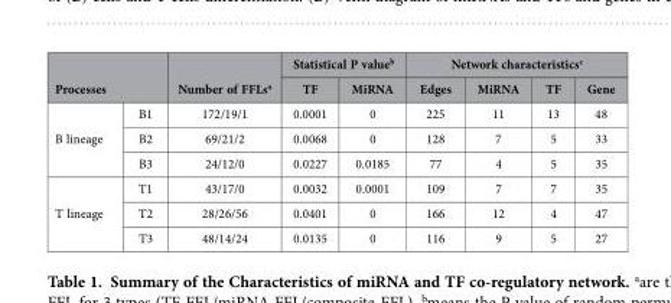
<table><thead><tr><td></td><td></td><td rowspan="2">Number of FFLs<sup>a</sup></td><td colspan="2">Statistical P value<sup>b</sup></td><td colspan="4">Network characteristics<sup>c</sup></td></tr><tr><td colspan="2">Processes</td><td>TF</td><td>MiRNA</td><td>Edges</td><td>MiRNA</td><td>TF</td><td>Gene</td></tr></thead><tbody><tr><td rowspan="3">B lineage</td><td>B1</td><td>172/19/1</td><td>0.0001</td><td>0</td><td>225</td><td>11</td><td>13</td><td>48</td></tr><tr><td>B2</td><td>69/21/2</td><td>0.0068</td><td>0</td><td>128</td><td>7</td><td>5</td><td>33</td></tr><tr><td>B3</td><td>24/12/0</td><td>0.0227</td><td>0.0185</td><td>77</td><td>4</td><td>5</td><td>35</td></tr><tr><td rowspan="3">T lineage</td><td>T1</td><td>43/17/0</td><td>0.0032</td><td>0.0001</td><td>109</td><td>7</td><td>7</td><td>35</td></tr><tr><td>T2</td><td>28/26/56</td><td>0.0401</td><td>0</td><td>166</td><td>12</td><td>4</td><td>47</td></tr><tr><td>T3</td><td>48/14/24</td><td>0.0135</td><td>0</td><td>116</td><td>9</td><td>5</td><td>27</td></tr></tbody></table>